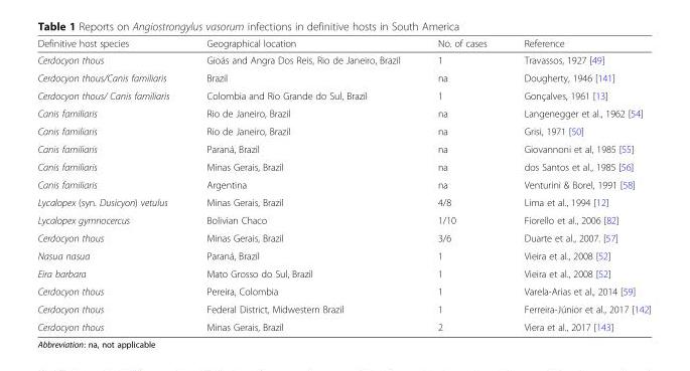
<table><thead><tr><td>Definitive host species</td><td>Geographical location</td><td>No. of cases</td><td>Reference</td></tr></thead><tbody><tr><td>Cerdocyon thous</td><td>Gioás and Angra Dos Reis, Rio de Janeiro, Brazil</td><td>1</td><td>Travassos, 1927 [49]</td></tr><tr><td>Cerdocyon thous/Canis familiaris</td><td>Brazil</td><td>na</td><td>Dougherty, 1946 [141]</td></tr><tr><td>Cerdocyon thous/ Canis familiaris</td><td>Colombia and Rio Grande do Sul, Brazil</td><td>1</td><td>Gonçalves, 1961 [13]</td></tr><tr><td>Canis familiaris</td><td>Rio de Janeiro, Brazil</td><td>na</td><td>Langenegger et al., 1962 [54]</td></tr><tr><td>Canis familiaris</td><td>Rio de Janeiro, Brazil</td><td>na</td><td>Grisi, 1971 [50]</td></tr><tr><td>Canis familiaris</td><td>Paraná, Brazil</td><td>na</td><td>Giovannoni et al, 1985 [55]</td></tr><tr><td>Canis familiaris</td><td>Minas Gerais, Brazil</td><td>na</td><td>dos Santos et al., 1985 [56]</td></tr><tr><td>Canis familiaris</td><td>Argentina</td><td>na</td><td>Venturini &amp; Borel, 1991 [58]</td></tr><tr><td>Lycalopex (syn. Dusicyon) vetulus</td><td>Minas Gerais, Brazil</td><td>4/8</td><td>Lima et al., 1994 [12]</td></tr><tr><td>Lycalopex gymnocercus</td><td>Bolivian Chaco</td><td>1/10</td><td>Fiorello et al., 2006 [82]</td></tr><tr><td>Cerdocyon thous</td><td>Minas Gerais, Brazil</td><td>3/6</td><td>Duarte et al., 2007. [57]</td></tr><tr><td>Nasua nasua</td><td>Paraná, Brazil</td><td>1</td><td>Vieira et al., 2008 [52]</td></tr><tr><td>Eira barbara</td><td>Mato Grosso do Sul, Brazil</td><td>1</td><td>Vieira et al., 2008 [52]</td></tr><tr><td>Cerdocyon thous</td><td>Pereira, Colombia</td><td>1</td><td>Varela-Arias et al., 2014 [59]</td></tr><tr><td>Cerdocyon thous</td><td>Federal District, Midwestern Brazil</td><td>1</td><td>Ferreira-Júnior et al., 2017 [142]</td></tr><tr><td>Cerdocyon thous</td><td>Minas Gerais, Brazil</td><td>2</td><td>Viera et al., 2017 [143]</td></tr></tbody></table>